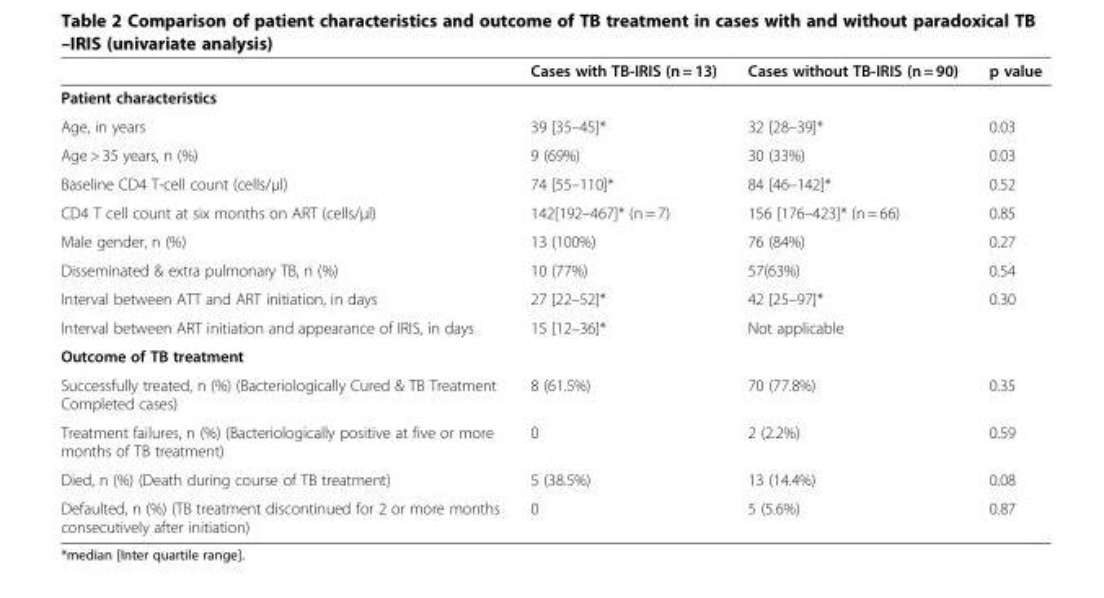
<table><thead><tr><td></td><td>Cases with TB-IRIS (n = 13)</td><td>Cases without TB-IRIS (n = 90)</td><td>p value</td></tr></thead><tbody><tr><td colspan="4">Patient characteristics</td></tr><tr><td>Age, in years</td><td>39 [35–45]*</td><td>32 [28–39]*</td><td>0.03</td></tr><tr><td>Age &gt; 35 years, n (%)</td><td>9 (69%)</td><td>30 (33%)</td><td>0.03</td></tr><tr><td>Baseline CD4 T-cell count (cells/μl)</td><td>74 [55–110]*</td><td>84 [46–142]*</td><td>0.52</td></tr><tr><td>CD4 T cell count at six months on ART (cells/μl)</td><td>142[192–467]* (n = 7)</td><td>156 [176–423]* (n = 66)</td><td>0.85</td></tr><tr><td>Male gender, n (%)</td><td>13 (100%)</td><td>76 (84%)</td><td>0.27</td></tr><tr><td>Disseminated &amp; extra pulmonary TB, n (%)</td><td>10 (77%)</td><td>57(63%)</td><td>0.54</td></tr><tr><td>Interval between ATT and ART initiation, in days</td><td>27 [22–52]*</td><td>42 [25–97]*</td><td>0.30</td></tr><tr><td>Interval between ART initiation and appearance of IRIS, in days</td><td>15 [12–36]*</td><td>Not applicable</td><td></td></tr><tr><td colspan="4">Outcome of TB treatment</td></tr><tr><td>Successfully treated, n (%) (Bacteriologically Cured &amp; TB Treatment Completed cases)</td><td>8 (61.5%)</td><td>70 (77.8%)</td><td>0.35</td></tr><tr><td>Treatment failures, n (%) (Bacteriologically positive at five or more months of TB treatment)</td><td>0</td><td>2 (2.2%)</td><td>0.59</td></tr><tr><td>Died, n (%) (Death during course of TB treatment)</td><td>5 (38.5%)</td><td>13 (14.4%)</td><td>0.08</td></tr><tr><td>Defaulted, n (%) (TB treatment discontinued for 2 or more months consecutively after initiation)</td><td>0</td><td>5 (5.6%)</td><td>0.87</td></tr></tbody></table>